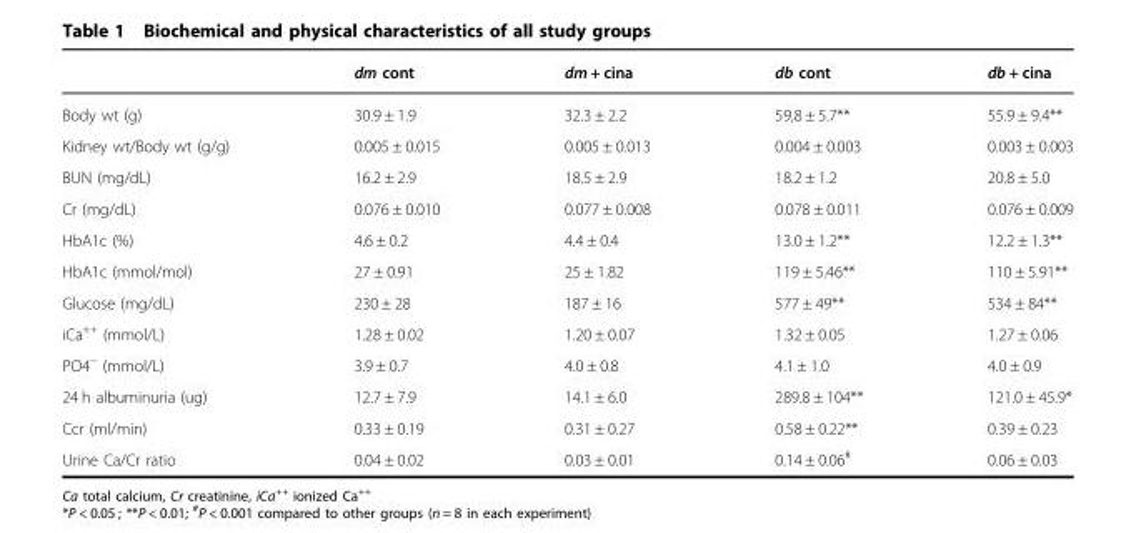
<table><thead><tr><td></td><td>dm cont</td><td>dm + cina</td><td>db cont</td><td>db + cina</td></tr></thead><tbody><tr><td>Body wt (g)</td><td>30.9 ± 1.9</td><td>32.3 ± 2.2</td><td>59,8 ± 5.7**</td><td>55.9 ± 9.4**</td></tr><tr><td>Kidney wt/Body wt (g/g)</td><td>0.005 ± 0.015</td><td>0.005 ± 0.013</td><td>0.004 ± 0.003</td><td>0.003 ± 0.003</td></tr><tr><td>BUN (mg/dL)</td><td>16.2 ± 2.9</td><td>18.5 ± 2.9</td><td>18.2 ± 1.2</td><td>20.8 ± 5.0</td></tr><tr><td>Cr (mg/dL)</td><td>0.076 ± 0.010</td><td>0.077 ± 0.008</td><td>0.078 ± 0.011</td><td>0.076 ± 0.009</td></tr><tr><td>HbA1c (%)</td><td>4.6 ± 0.2</td><td>4.4 ± 0.4</td><td>13.0 ± 1.2**</td><td>12.2 ± 1.3**</td></tr><tr><td>HbA1c (mmol/mol)</td><td>27 ± 0.91</td><td>25 ± 1.82</td><td>119 ± 5.46**</td><td>110 ± 5.91**</td></tr><tr><td>Glucose (mg/dL)</td><td>230 ± 28</td><td>187 ± 16</td><td>577 ± 49**</td><td>534 ± 84**</td></tr><tr><td>iCa<sup>++</sup> (mmol/L)</td><td>1.28 ± 0.02</td><td>1.20 ± 0.07</td><td>1.32 ± 0.05</td><td>1.27 ± 0.06</td></tr><tr><td>PO4<sup>−</sup> (mmol/L)</td><td>3.9 ± 0.7</td><td>4.0 ± 0.8</td><td>4.1 ± 1.0</td><td>4.0 ± 0.9</td></tr><tr><td>24 h albuminuria (ug)</td><td>12.7 ± 7.9</td><td>14.1 ± 6.0</td><td>289.8 ± 104**</td><td>121.0 ± 45.9*</td></tr><tr><td>Ccr (ml/min)</td><td>0.33 ± 0.19</td><td>0.31 ± 0.27</td><td>0.58 ± 0.22**</td><td>0.39 ± 0.23</td></tr><tr><td>Urine Ca/Cr ratio</td><td>0.04 ± 0.02</td><td>0.03 ± 0.01</td><td>0.14 ± 0.06<sup>#</sup></td><td>0.06 ± 0.03</td></tr></tbody></table>